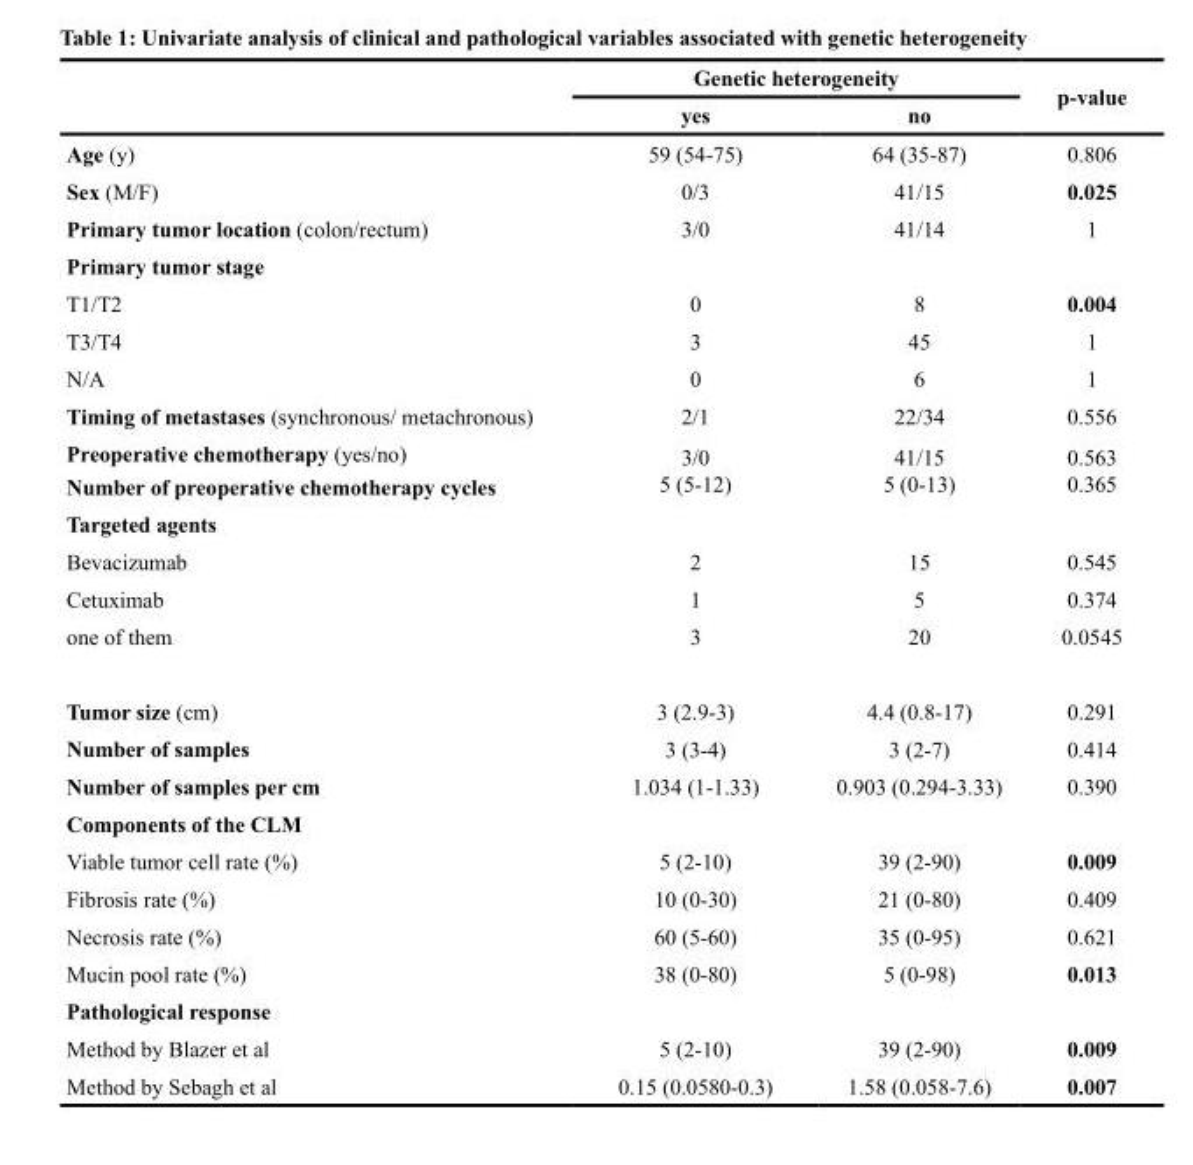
<table><thead><tr><td rowspan="2"></td><td colspan="2">Genetic heterogeneity</td><td rowspan="2">p-value</td></tr><tr><td>yes</td><td>no</td></tr></thead><tbody><tr><td>Age (y)</td><td>59 (54-75)</td><td>64 (35-87)</td><td>0.806</td></tr><tr><td>Sex (M/F)</td><td>0/3</td><td>41/15</td><td>0.025</td></tr><tr><td>Primary tumor location (colon/rectum)</td><td>3/0</td><td>41/14</td><td>1</td></tr><tr><td colspan="4">Primary tumor stage</td></tr><tr><td>T1/T2</td><td>0</td><td>8</td><td>0.004</td></tr><tr><td>T3/T4</td><td>3</td><td>45</td><td>1</td></tr><tr><td>N/A</td><td>0</td><td>6</td><td>1</td></tr><tr><td>Timing of metastases (synchronous/ metachronous)</td><td>2/1</td><td>22/34</td><td>0.556</td></tr><tr><td>Preoperative chemotherapy (yes/no) Number of preoperative chemotherapy cycles</td><td>3/0 5 (5-12)</td><td>41/15 5 (0-13)</td><td>0.563 0.365</td></tr><tr><td colspan="4">Targeted agents</td></tr><tr><td>Bevacizumab</td><td>2</td><td>15</td><td>0.545</td></tr><tr><td>Cetuximab</td><td>1</td><td>5</td><td>0.374</td></tr><tr><td>one of them</td><td>3</td><td>20</td><td>0.0545</td></tr><tr><td>Tumor size (cm)</td><td>3 (2.9-3)</td><td>4.4 (0.8-17)</td><td>0.291</td></tr><tr><td>Number of samples</td><td>3 (3-4)</td><td>3 (2-7)</td><td>0.414</td></tr><tr><td>Number of samples per cm</td><td>1.034 (1-1.33)</td><td>0.903 (0.294-3.33)</td><td>0.390</td></tr><tr><td colspan="4">Components of the CLM</td></tr><tr><td>Viable tumor cell rate (%)</td><td>5 (2-10)</td><td>39 (2-90)</td><td>0.009</td></tr><tr><td>Fibrosis rate (%)</td><td>10 (0-30)</td><td>21 (0-80)</td><td>0.409</td></tr><tr><td>Necrosis rate (%)</td><td>60 (5-60)</td><td>35 (0-95)</td><td>0.621</td></tr><tr><td>Mucin pool rate (%)</td><td>38 (0-80)</td><td>5 (0-98)</td><td>0.013</td></tr><tr><td colspan="4">Pathological response</td></tr><tr><td>Method by Blazer et al</td><td>5 (2-10)</td><td>39 (2-90)</td><td>0.009</td></tr><tr><td>Method by Sebagh et al</td><td>0.15 (0.0580-0.3)</td><td>1.58 (0.058-7.6)</td><td>0.007</td></tr></tbody></table>